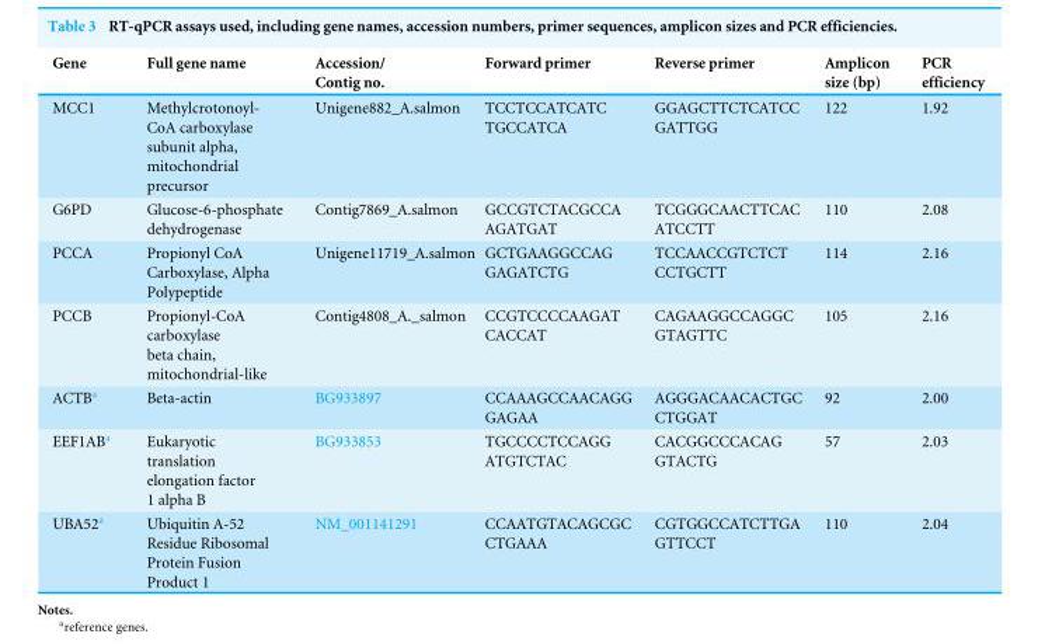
<table><thead><tr><td>Gene</td><td>Full gene name</td><td>Accession/ Contig no.</td><td>Forward primer</td><td>Reverse primer</td><td>Amplicon size (bp)</td><td>PCR efficiency</td></tr></thead><tbody><tr><td>MCC1</td><td>Methylcrotonoyl- CoA carboxylase subunit alpha, mitochondrial precursor</td><td>Unigene882_A.salmon</td><td>TCCTCCATCATC TGCCATCA</td><td>GGAGCTTCTCATCC GATTGG</td><td>122</td><td>1.92</td></tr><tr><td>G6PD</td><td>Glucose-6-phosphate dehydrogenase</td><td>Contig7869_A.salmon</td><td>GCCGTCTACGCCA AGATGAT</td><td>TCGGGCAACTTCAC ATCCTT</td><td>110</td><td>2.08</td></tr><tr><td>PCCA</td><td>Propionyl CoA Carboxylase, Alpha Polypeptide</td><td>Unigene11719_A.salmon</td><td>GCTGAAGGCCAG GAGATCTG</td><td>TCCAACCGTCTCT CCTGCTT</td><td>114</td><td>2.16</td></tr><tr><td>PCCB</td><td>Propionyl-CoA carboxylase beta chain, mitochondrial-like</td><td>Contig4808_A._salmon</td><td>CCGTCCCCAAGAT CACCAT</td><td>CAGAAGGCCAGGC GTAGTTC</td><td>105</td><td>2.16</td></tr><tr><td>ACTB<sup>a</sup></td><td>Beta-actin</td><td>BG933897</td><td>CCAAAGCCAACAGG GAGAA</td><td>AGGGACAACACTGC CTGGAT</td><td>92</td><td>2.00</td></tr><tr><td>EEF1AB<sup>a</sup></td><td>Eukaryotic translation elongation factor 1 alpha B</td><td>BG933853</td><td>TGCCCCTCCAGG ATGTCTAC</td><td>CACGGCCCACAG GTACTG</td><td>57</td><td>2.03</td></tr><tr><td>UBA52<sup>a</sup></td><td>Ubiquitin A-52 Residue Ribosomal Protein Fusion Product 1</td><td>NM_001141291</td><td>CCAATGTACAGCGC CTGAAA</td><td>CGTGGCCATCTTGA GTTCCT</td><td>110</td><td>2.04</td></tr></tbody></table>